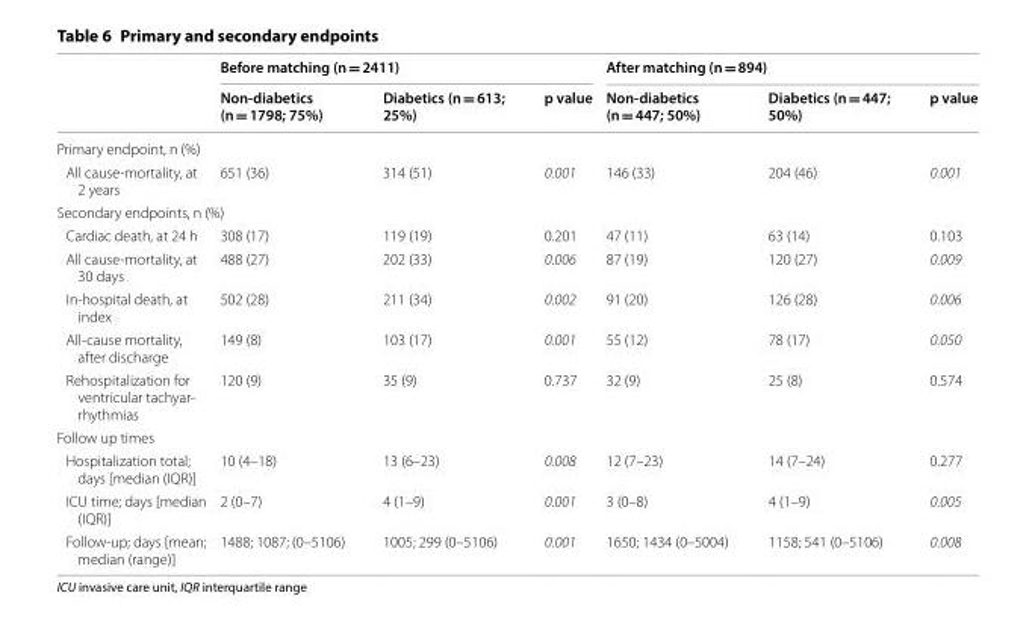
<table><thead><tr><td rowspan="2"></td><td colspan="3">Before matching (n = 2411)</td><td colspan="3">After matching (n = 894)</td></tr><tr><td>Non‑diabetics (n = 1798; 75%)</td><td>Diabetics (n = 613; 25%)</td><td>p value</td><td>Non‑diabetics (n = 447; 50%)</td><td>Diabetics (n = 447; 50%)</td><td>p value</td></tr></thead><tbody><tr><td colspan="7">Primary endpoint, n (%)</td></tr><tr><td>All cause‑mortality, at 2 years</td><td>651 (36)</td><td>314 (51)</td><td>0.001</td><td>146 (33)</td><td>204 (46)</td><td>0.001</td></tr><tr><td colspan="7">Secondary endpoints, n (%)</td></tr><tr><td>Cardiac death, at 24 h</td><td>308 (17)</td><td>119 (19)</td><td>0.201</td><td>47 (11)</td><td>63 (14)</td><td>0.103</td></tr><tr><td>All cause‑mortality, at 30 days</td><td>488 (27)</td><td>202 (33)</td><td>0.006</td><td>87 (19)</td><td>120 (27)</td><td>0.009</td></tr><tr><td>In‑hospital death, at index</td><td>502 (28)</td><td>211 (34)</td><td>0.002</td><td>91 (20)</td><td>126 (28)</td><td>0.006</td></tr><tr><td>All‑cause mortality, after discharge</td><td>149 (8)</td><td>103 (17)</td><td>0.001</td><td>55 (12)</td><td>78 (17)</td><td>0.050</td></tr><tr><td>Rehospitalization for ventricular tachyar‑ rhythmias</td><td>120 (9)</td><td>35 (9)</td><td>0.737</td><td>32 (9)</td><td>25 (8)</td><td>0.574</td></tr><tr><td colspan="7">Follow up times</td></tr><tr><td>Hospitalization total; days [median (IQR)]</td><td>10 (4–18)</td><td>13 (6–23)</td><td>0.008</td><td>12 (7–23)</td><td>14 (7–24)</td><td>0.277</td></tr><tr><td>ICU time; days [median (IQR)]</td><td>2 (0–7)</td><td>4 (1–9)</td><td>0.001</td><td>3 (0–8)</td><td>4 (1–9)</td><td>0.005</td></tr><tr><td>Follow‑up; days [mean; median (range)]</td><td>1488; 1087; (0–5106)</td><td>1005; 299 (0–5106)</td><td>0.001</td><td>1650; 1434 (0–5004)</td><td>1158; 541 (0–5106)</td><td>0.008</td></tr></tbody></table>